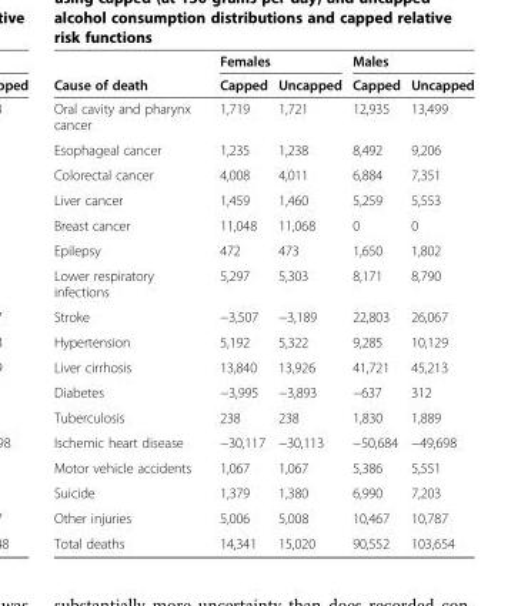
<table><thead><tr><td rowspan="2">Cause of death</td><td colspan="2">Females</td><td colspan="2">Males</td></tr><tr><td>Capped</td><td>Uncapped</td><td>Capped</td><td>Uncapped</td></tr></thead><tbody><tr><td>Oral cavity and pharynx cancer</td><td>1,719</td><td>1,721</td><td>12,935</td><td>13,499</td></tr><tr><td>Esophageal cancer</td><td>1,235</td><td>1,238</td><td>8,492</td><td>9,206</td></tr><tr><td>Colorectal cancer</td><td>4,008</td><td>4,011</td><td>6,884</td><td>7,351</td></tr><tr><td>Liver cancer</td><td>1,459</td><td>1,460</td><td>5,259</td><td>5,553</td></tr><tr><td>Breast cancer</td><td>11,048</td><td>11,068</td><td>0</td><td>0</td></tr><tr><td>Epilepsy</td><td>472</td><td>473</td><td>1,650</td><td>1,802</td></tr><tr><td>Lower respiratory infections</td><td>5,297</td><td>5,303</td><td>8,171</td><td>8,790</td></tr><tr><td>Stroke</td><td>−3,507</td><td>−3,189</td><td>22,803</td><td>26,067</td></tr><tr><td>Hypertension</td><td>5,192</td><td>5,322</td><td>9,285</td><td>10,129</td></tr><tr><td>Liver cirrhosis</td><td>13,840</td><td>13,926</td><td>41,721</td><td>45,213</td></tr><tr><td>Diabetes</td><td>−3,995</td><td>−3,893</td><td>−637</td><td>312</td></tr><tr><td>Tuberculosis</td><td>238</td><td>238</td><td>1,830</td><td>1,889</td></tr><tr><td>Ischemic heart disease</td><td>−30,117</td><td>−30,113</td><td>−50,684</td><td>−49,698</td></tr><tr><td>Motor vehicle accidents</td><td>1,067</td><td>1,067</td><td>5,386</td><td>5,551</td></tr><tr><td>Suicide</td><td>1,379</td><td>1,380</td><td>6,990</td><td>7,203</td></tr><tr><td>Other injuries</td><td>5,006</td><td>5,008</td><td>10,467</td><td>10,787</td></tr><tr><td>Total deaths</td><td>14,341</td><td>15,020</td><td>90,552</td><td>103,654</td></tr></tbody></table>